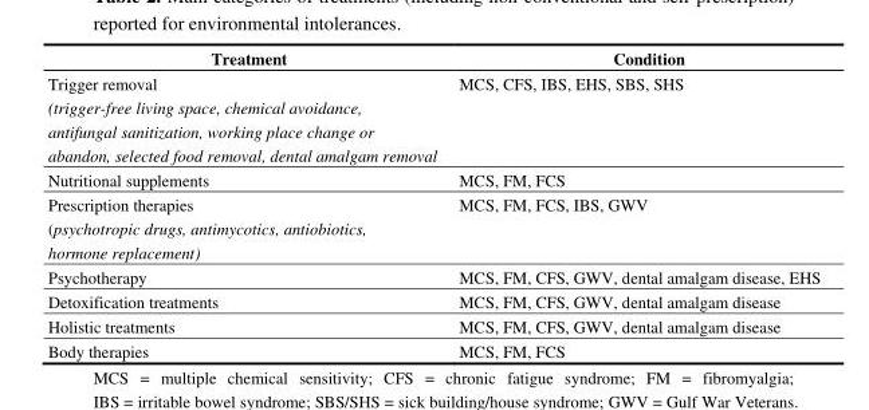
<table><thead><tr><td>Treatment</td><td>Condition</td></tr></thead><tbody><tr><td>Trigger removal (trigger-free living space, chemical avoidance, antifungal sanitization, working place change or abandon, selected food removal, dental amalgam removal</td><td>MCS, CFS, IBS, EHS, SBS, SHS</td></tr><tr><td>Nutritional supplements</td><td>MCS, FM, FCS</td></tr><tr><td>Prescription therapies (psychotropic drugs, antimycotics, antiobiotics, hormone replacement)</td><td>MCS, FM, FCS, IBS, GWV</td></tr><tr><td>Psychotherapy</td><td>MCS, FM, CFS, GWV, dental amalgam disease, EHS</td></tr><tr><td>Detoxification treatments</td><td>MCS, FM, CFS, GWV, dental amalgam disease</td></tr><tr><td>Holistic treatments</td><td>MCS, FM, CFS, GWV, dental amalgam disease</td></tr><tr><td>Body therapies</td><td>MCS, FM, FCS</td></tr></tbody></table>